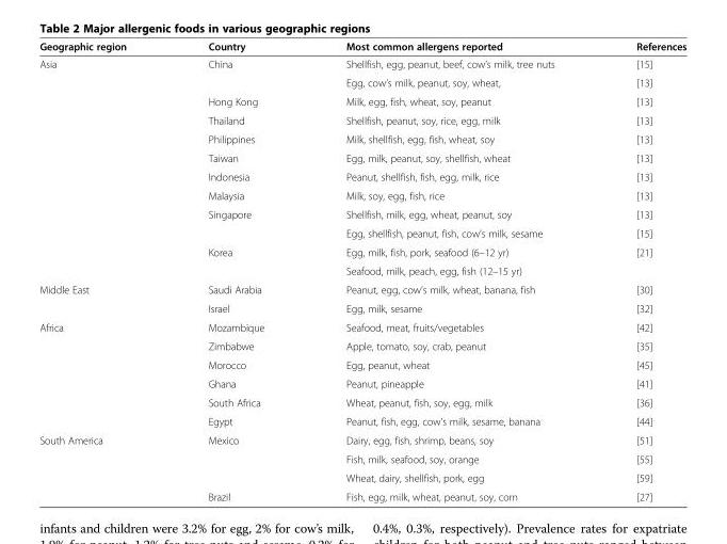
<table><thead><tr><td>Geographic region</td><td>Country</td><td>Most common allergens reported</td><td>References</td></tr></thead><tbody><tr><td rowspan="12">Asia</td><td rowspan="2">China</td><td>Shellfish, egg, peanut, beef, cow’s milk, tree nuts</td><td>[15]</td></tr><tr><td>Egg, cow’s milk, peanut, soy, wheat,</td><td>[13]</td></tr><tr><td>Hong Kong</td><td>Milk, egg, fish, wheat, soy, peanut</td><td>[13]</td></tr><tr><td>Thailand</td><td>Shellfish, peanut, soy, rice, egg, milk</td><td>[13]</td></tr><tr><td>Philippines</td><td>Milk, shellfish, egg, fish, wheat, soy</td><td>[13]</td></tr><tr><td>Taiwan</td><td>Egg, milk, peanut, soy, shellfish, wheat</td><td>[13]</td></tr><tr><td>Indonesia</td><td>Peanut, shellfish, fish, egg, milk, rice</td><td>[13]</td></tr><tr><td>Malaysia</td><td>Milk, soy, egg, fish, rice</td><td>[13]</td></tr><tr><td rowspan="2">Singapore</td><td>Shellfish, milk, egg, wheat, peanut, soy</td><td>[13]</td></tr><tr><td>Egg, shellfish, peanut, fish, cow’s milk, sesame</td><td>[15]</td></tr><tr><td rowspan="2">Korea</td><td>Egg, milk, fish, pork, seafood (6–12 yr)</td><td rowspan="2">[21]</td></tr><tr><td>Seafood, milk, peach, egg, fish (12–15 yr)</td></tr><tr><td rowspan="2">Middle East</td><td>Saudi Arabia</td><td>Peanut, egg, cow’s milk, wheat, banana, fish</td><td>[30]</td></tr><tr><td>Israel</td><td>Egg, milk, sesame</td><td>[32]</td></tr><tr><td rowspan="6">Africa</td><td>Mozambique</td><td>Seafood, meat, fruits/vegetables</td><td>[42]</td></tr><tr><td>Zimbabwe</td><td>Apple, tomato, soy, crab, peanut</td><td>[35]</td></tr><tr><td>Morocco</td><td>Egg, peanut, wheat</td><td>[45]</td></tr><tr><td>Ghana</td><td>Peanut, pineapple</td><td>[41]</td></tr><tr><td>South Africa</td><td>Wheat, peanut, fish, soy, egg, milk</td><td>[36]</td></tr><tr><td>Egypt</td><td>Peanut, fish, egg, cow’s milk, sesame, banana</td><td>[44]</td></tr><tr><td rowspan="4">South America</td><td rowspan="3">Mexico</td><td>Dairy, egg, fish, shrimp, beans, soy</td><td>[51]</td></tr><tr><td>Fish, milk, seafood, soy, orange</td><td>[55]</td></tr><tr><td>Wheat, dairy, shellfish, pork, egg</td><td>[59]</td></tr><tr><td>Brazil</td><td>Fish, egg, milk, wheat, peanut, soy, corn</td><td>[27]</td></tr></tbody></table>